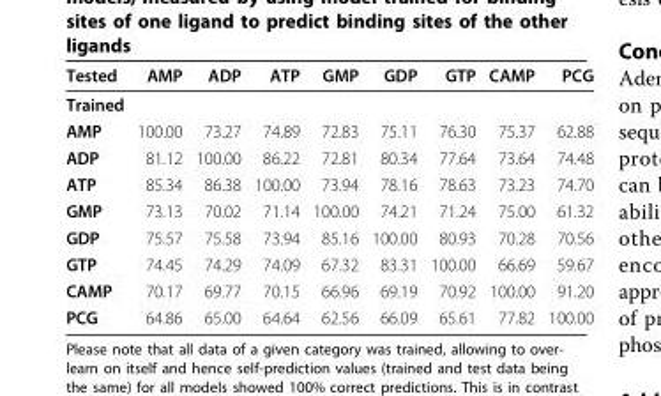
<table><thead><tr><td>Tested</td><td>AMP</td><td>ADP</td><td>ATP</td><td>GMP</td><td>GDP</td><td>GTP</td><td>CAMP</td><td>PCG</td></tr></thead><tbody><tr><td colspan="9">Trained</td></tr><tr><td>AMP</td><td>100.00</td><td>73.27</td><td>74.89</td><td>72.83</td><td>75.11</td><td>76.30</td><td>75.37</td><td>62.88</td></tr><tr><td>ADP</td><td>81.12</td><td>100.00</td><td>86.22</td><td>72.81</td><td>80.34</td><td>77.64</td><td>73.64</td><td>74.48</td></tr><tr><td>ATP</td><td>85.34</td><td>86.38</td><td>100.00</td><td>73.94</td><td>78.16</td><td>78.63</td><td>73.23</td><td>74.70</td></tr><tr><td>GMP</td><td>73.13</td><td>70.02</td><td>71.14</td><td>100.00</td><td>74.21</td><td>71.24</td><td>75.00</td><td>61.32</td></tr><tr><td>GDP</td><td>75.57</td><td>75.58</td><td>73.94</td><td>85.16</td><td>100.00</td><td>80.93</td><td>70.28</td><td>70.56</td></tr><tr><td>GTP</td><td>74.45</td><td>74.29</td><td>74.09</td><td>67.32</td><td>83.31</td><td>100.00</td><td>66.69</td><td>59.67</td></tr><tr><td>CAMP</td><td>70.17</td><td>69.77</td><td>70.15</td><td>66.96</td><td>69.19</td><td>70.92</td><td>100.00</td><td>91.20</td></tr><tr><td>PCG</td><td>64.86</td><td>65.00</td><td>64.64</td><td>62.56</td><td>66.09</td><td>65.61</td><td>77.82</td><td>100.00</td></tr></tbody></table>